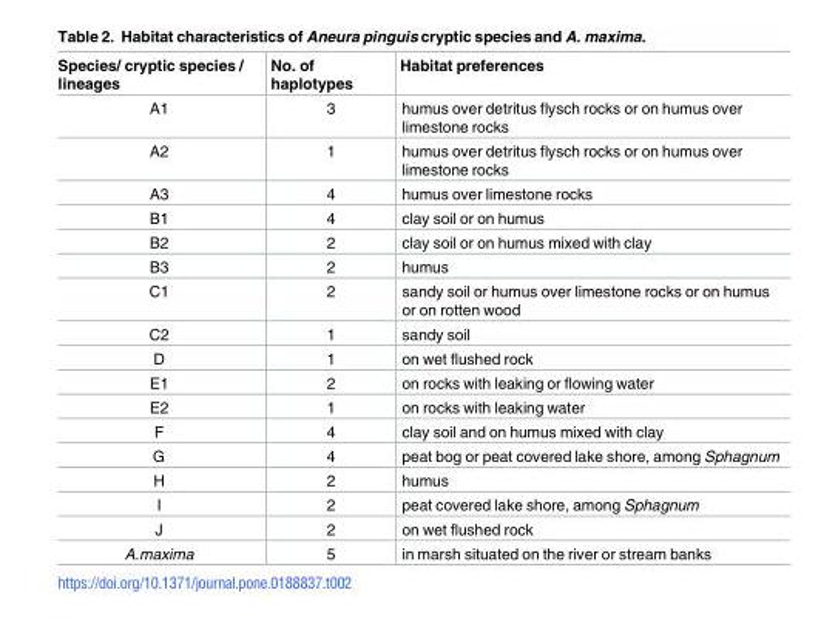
<table><thead><tr><td>Species/ cryptic species / lineages</td><td>No. of haplotypes</td><td>Habitat preferences</td></tr></thead><tbody><tr><td>A1</td><td>3</td><td>humus over detritus flysch rocks or on humus over limestone rocks</td></tr><tr><td>A2</td><td>1</td><td>humus over detritus flysch rocks or on humus over limestone rocks</td></tr><tr><td>A3</td><td>4</td><td>humus over limestone rocks</td></tr><tr><td>B1</td><td>4</td><td>clay soil or on humus</td></tr><tr><td>B2</td><td>2</td><td>clay soil or on humus mixed with clay</td></tr><tr><td>B3</td><td>2</td><td>humus</td></tr><tr><td>C1</td><td>2</td><td>sandy soil or humus over limestone rocks or on humus or on rotten wood</td></tr><tr><td>C2</td><td>1</td><td>sandy soil</td></tr><tr><td>D</td><td>1</td><td>on wet flushed rock</td></tr><tr><td>E1</td><td>2</td><td>on rocks with leaking or flowing water</td></tr><tr><td>E2</td><td>1</td><td>on rocks with leaking water</td></tr><tr><td>F</td><td>4</td><td>clay soil and on humus mixed with clay</td></tr><tr><td>G</td><td>4</td><td>peat bog or peat covered lake shore, among Sphagnum</td></tr><tr><td>H</td><td>2</td><td>humus</td></tr><tr><td>I</td><td>2</td><td>peat covered lake shore, among Sphagnum</td></tr><tr><td>J</td><td>2</td><td>on wet flushed rock</td></tr><tr><td>A.maxima</td><td>5</td><td>in marsh situated on the river or stream banks</td></tr></tbody></table>